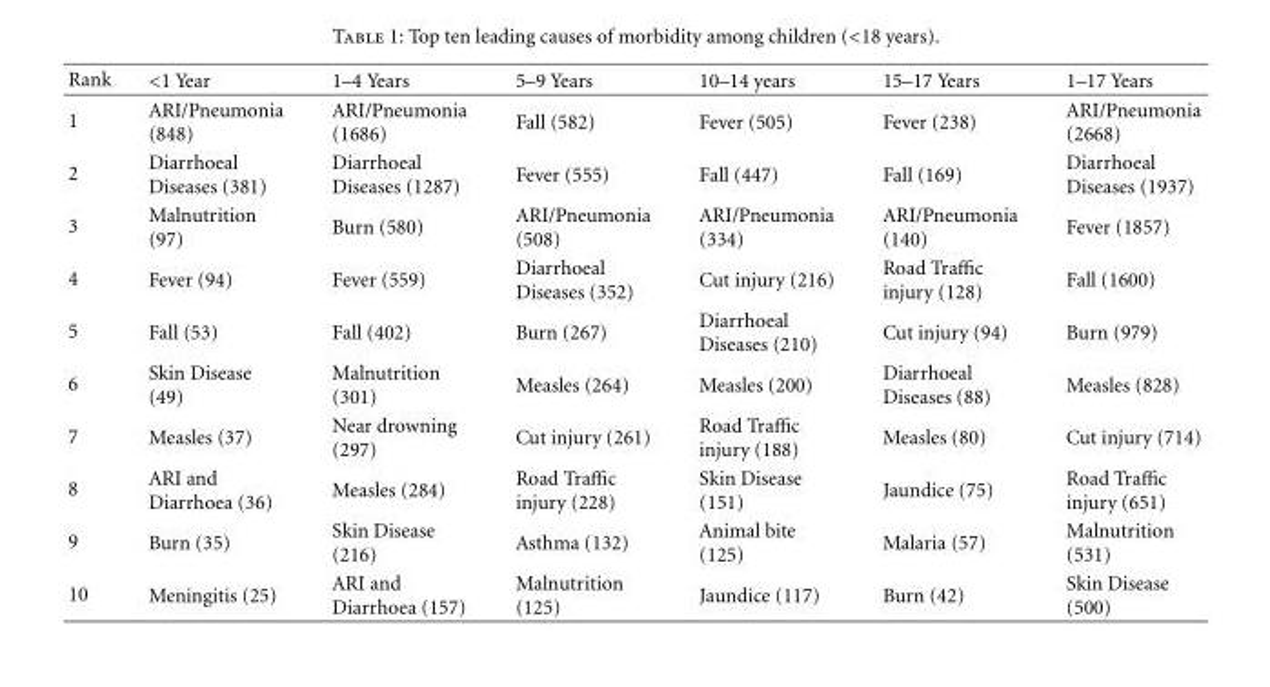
<table><thead><tr><td>Rank</td><td>&lt;1 Year</td><td>1–4 Years</td><td>5–9 Years</td><td>10–14 years</td><td>15–17 Years</td><td>1–17 Years</td></tr></thead><tbody><tr><td>1</td><td>ARI/Pneumonia (848)</td><td>ARI/Pneumonia (1686)</td><td>Fall (582)</td><td>Fever (505)</td><td>Fever (238)</td><td>ARI/Pneumonia (2668)</td></tr><tr><td>2</td><td>Diarrhoeal Diseases (381)</td><td>Diarrhoeal Diseases (1287)</td><td>Fever (555)</td><td>Fall (447)</td><td>Fall (169)</td><td>Diarrhoeal Diseases (1937)</td></tr><tr><td>3</td><td>Malnutrition (97)</td><td>Burn (580)</td><td>ARI/Pneumonia (508)</td><td>ARI/Pneumonia (334)</td><td>ARI/Pneumonia (140)</td><td>Fever (1857)</td></tr><tr><td>4</td><td>Fever (94)</td><td>Fever (559)</td><td>Diarrhoeal Diseases (352)</td><td>Cut injury (216)</td><td>Road Traffic injury (128)</td><td>Fall (1600)</td></tr><tr><td>5</td><td>Fall (53)</td><td>Fall (402)</td><td>Burn (267)</td><td>Diarrhoeal Diseases (210)</td><td>Cut injury (94)</td><td>Burn (979)</td></tr><tr><td>6</td><td>Skin Disease (49)</td><td>Malnutrition (301)</td><td>Measles (264)</td><td>Measles (200)</td><td>Diarrhoeal Diseases (88)</td><td>Measles (828)</td></tr><tr><td>7</td><td>Measles (37)</td><td>Near drowning (297)</td><td>Cut injury (261)</td><td>Road Traffic injury (188)</td><td>Measles (80)</td><td>Cut injury (714)</td></tr><tr><td>8</td><td>ARI and Diarrhoea (36)</td><td>Measles (284)</td><td>Road Traffic injury (228)</td><td>Skin Disease (151)</td><td>Jaundice (75)</td><td>Road Traffic injury (651)</td></tr><tr><td>9</td><td>Burn (35)</td><td>Skin Disease (216)</td><td>Asthma (132)</td><td>Animal bite (125)</td><td>Malaria (57)</td><td>Malnutrition (531)</td></tr><tr><td>10</td><td>Meningitis (25)</td><td>ARI and Diarrhoea (157)</td><td>Malnutrition (125)</td><td>Jaundice (117)</td><td>Burn (42)</td><td>Skin Disease (500)</td></tr></tbody></table>